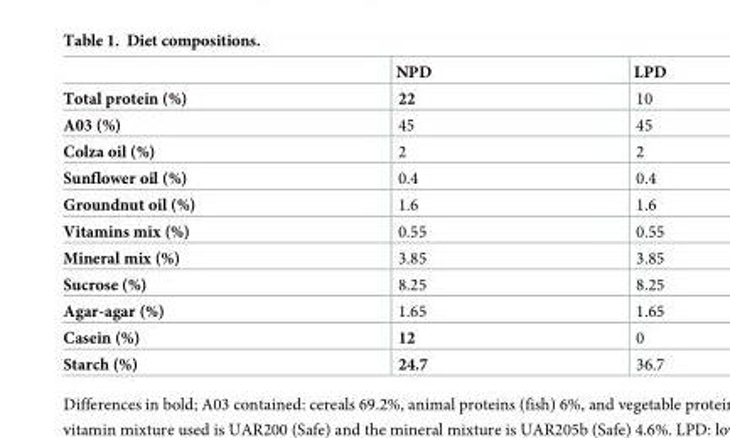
<table><thead><tr><td></td><td>NPD</td><td>LPD</td></tr></thead><tbody><tr><td>Total protein (%)</td><td>22</td><td>10</td></tr><tr><td>A03 (%)</td><td>45</td><td>45</td></tr><tr><td>Colza oil (%)</td><td>2</td><td>2</td></tr><tr><td>Sunflower oil (%)</td><td>0.4</td><td>0.4</td></tr><tr><td>Groundnut oil (%)</td><td>1.6</td><td>1.6</td></tr><tr><td>Vitamins mix (%)</td><td>0.55</td><td>0.55</td></tr><tr><td>Mineral mix (%)</td><td>3.85</td><td>3.85</td></tr><tr><td>Sucrose (%)</td><td>8.25</td><td>8.25</td></tr><tr><td>Agar-agar (%)</td><td>1.65</td><td>1.65</td></tr><tr><td>Casein (%)</td><td>12</td><td>0</td></tr><tr><td>Starch (%)</td><td>24.7</td><td>36.7</td></tr></tbody></table>